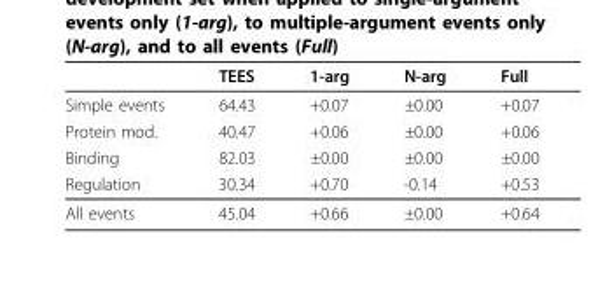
<table><thead><tr><td></td><td>TEES</td><td>1-arg</td><td>N-arg</td><td>Full</td></tr></thead><tbody><tr><td>Simple events</td><td>64.43</td><td>+0.07</td><td>±0.00</td><td>+0.07</td></tr><tr><td>Protein mod.</td><td>40.47</td><td>+0.06</td><td>±0.00</td><td>+0.06</td></tr><tr><td>Binding</td><td>82.03</td><td>±0.00</td><td>±0.00</td><td>±0.00</td></tr><tr><td>Regulation</td><td>30.34</td><td>+0.70</td><td>-0.14</td><td>+0.53</td></tr><tr><td>All events</td><td>45.04</td><td>+0.66</td><td>±0.00</td><td>+0.64</td></tr></tbody></table>